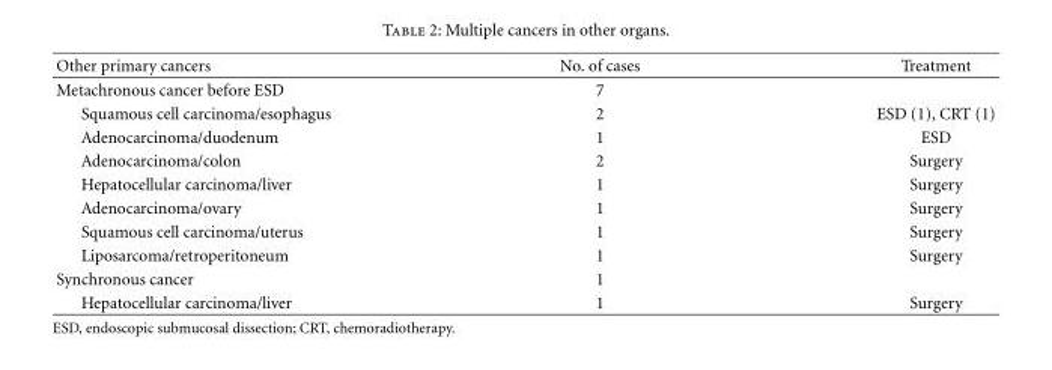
<table><thead><tr><td>Other primary cancers</td><td>No. of cases</td><td>Treatment</td></tr></thead><tbody><tr><td>Metachronous cancer before ESD</td><td>7</td><td></td></tr><tr><td>Squamous cell carcinoma/esophagus</td><td>2</td><td>ESD (1), CRT (1)</td></tr><tr><td>Adenocarcinoma/duodenum</td><td>1</td><td>ESD</td></tr><tr><td>Adenocarcinoma/colon</td><td>2</td><td>Surgery</td></tr><tr><td>Hepatocellular carcinoma/liver</td><td>1</td><td>Surgery</td></tr><tr><td>Adenocarcinoma/ovary</td><td>1</td><td>Surgery</td></tr><tr><td>Squamous cell carcinoma/uterus</td><td>1</td><td>Surgery</td></tr><tr><td>Liposarcoma/retroperitoneum</td><td>1</td><td>Surgery</td></tr><tr><td>Synchronous cancer</td><td>1</td><td></td></tr><tr><td>Hepatocellular carcinoma/liver</td><td>1</td><td>Surgery</td></tr></tbody></table>